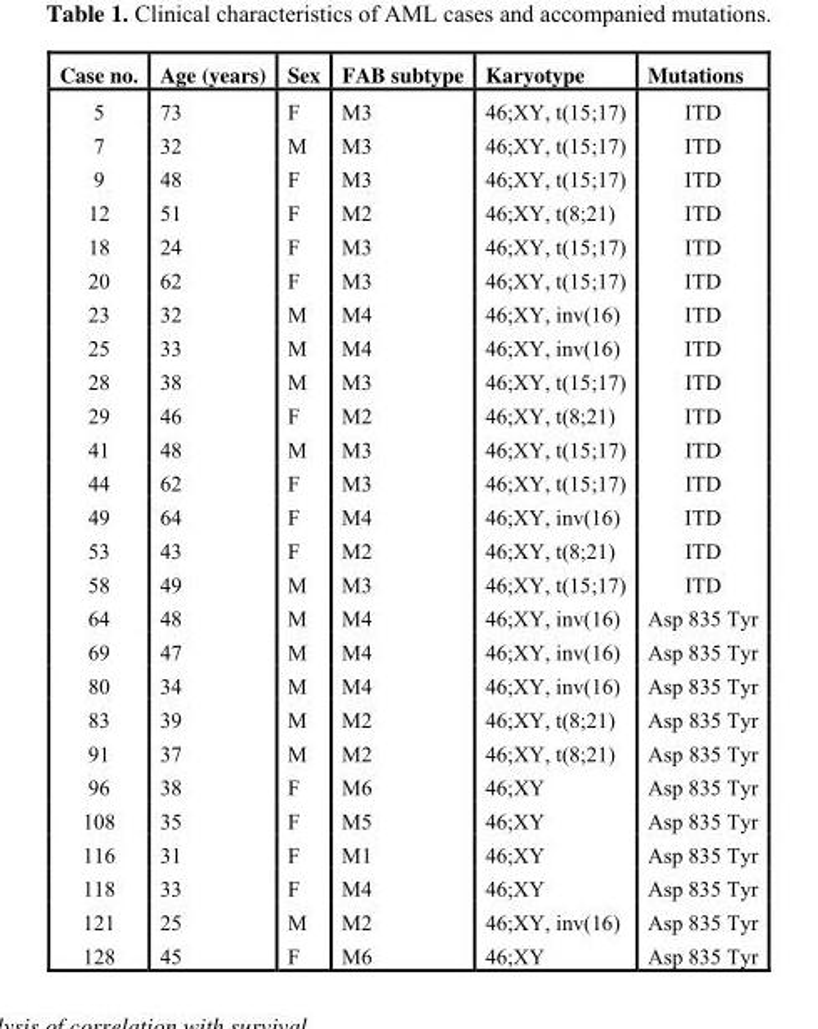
<table><thead><tr><td>Case no.</td><td>Age (years)</td><td>Sex</td><td>FAB subtype</td><td>Karyotype</td><td>Mutations</td></tr></thead><tbody><tr><td>5</td><td>73</td><td>F</td><td>M3</td><td>46;XY, t(15;17)</td><td>ITD</td></tr><tr><td>7</td><td>32</td><td>M</td><td>M3</td><td>46;XY, t(15;17)</td><td>ITD</td></tr><tr><td>9</td><td>48</td><td>F</td><td>M3</td><td>46;XY, t(15;17)</td><td>ITD</td></tr><tr><td>12</td><td>51</td><td>F</td><td>M2</td><td>46;XY, t(8;21)</td><td>ITD</td></tr><tr><td>18</td><td>24</td><td>F</td><td>M3</td><td>46;XY, t(15;17)</td><td>ITD</td></tr><tr><td>20</td><td>62</td><td>F</td><td>M3</td><td>46;XY, t(15;17)</td><td>ITD</td></tr><tr><td>23</td><td>32</td><td>M</td><td>M4</td><td>46;XY, inv(16)</td><td>ITD</td></tr><tr><td>25</td><td>33</td><td>M</td><td>M4</td><td>46;XY, inv(16)</td><td>ITD</td></tr><tr><td>28</td><td>38</td><td>M</td><td>M3</td><td>46;XY, t(15;17)</td><td>ITD</td></tr><tr><td>29</td><td>46</td><td>F</td><td>M2</td><td>46;XY, t(8;21)</td><td>ITD</td></tr><tr><td>41</td><td>48</td><td>M</td><td>M3</td><td>46;XY, t(15;17)</td><td>ITD</td></tr><tr><td>44</td><td>62</td><td>F</td><td>M3</td><td>46;XY, t(15;17)</td><td>ITD</td></tr><tr><td>49</td><td>64</td><td>F</td><td>M4</td><td>46;XY, inv(16)</td><td>ITD</td></tr><tr><td>53</td><td>43</td><td>F</td><td>M2</td><td>46;XY, t(8;21)</td><td>ITD</td></tr><tr><td>58</td><td>49</td><td>M</td><td>M3</td><td>46;XY, t(15;17)</td><td>ITD</td></tr><tr><td>64</td><td>48</td><td>M</td><td>M4</td><td>46;XY, inv(16)</td><td>Asp 835 Tyr</td></tr><tr><td>69</td><td>47</td><td>M</td><td>M4</td><td>46;XY, inv(16)</td><td>Asp 835 Tyr</td></tr><tr><td>80</td><td>34</td><td>M</td><td>M4</td><td>46;XY, inv(16)</td><td>Asp 835 Tyr</td></tr><tr><td>83</td><td>39</td><td>M</td><td>M2</td><td>46;XY, t(8;21)</td><td>Asp 835 Tyr</td></tr><tr><td>91</td><td>37</td><td>M</td><td>M2</td><td>46;XY, t(8;21)</td><td>Asp 835 Tyr</td></tr><tr><td>96</td><td>38</td><td>F</td><td>M6</td><td>46;XY</td><td>Asp 835 Tyr</td></tr><tr><td>108</td><td>35</td><td>F</td><td>M5</td><td>46;XY</td><td>Asp 835 Tyr</td></tr><tr><td>116</td><td>31</td><td>F</td><td>M1</td><td>46;XY</td><td>Asp 835 Tyr</td></tr><tr><td>118</td><td>33</td><td>F</td><td>M4</td><td>46;XY</td><td>Asp 835 Tyr</td></tr><tr><td>121</td><td>25</td><td>M</td><td>M2</td><td>46;XY, inv(16)</td><td>Asp 835 Tyr</td></tr><tr><td>128</td><td>45</td><td>F</td><td>M6</td><td>46;XY</td><td>Asp 835 Tyr</td></tr></tbody></table>